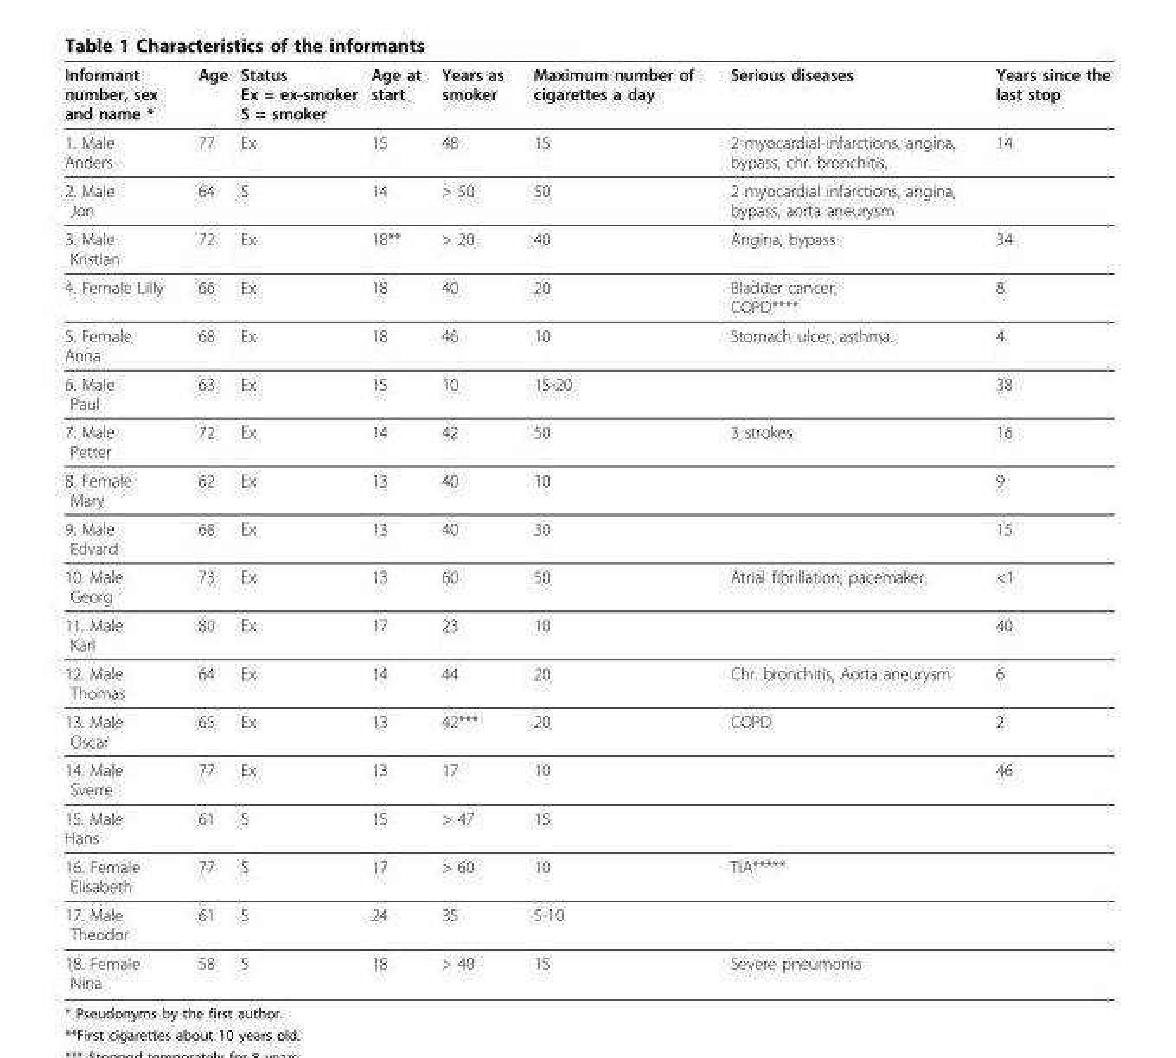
<table><thead><tr><td>Informant number, sex and name *</td><td>Age</td><td>Status Ex = ex-smoker S = smoker</td><td>Age at start</td><td>Years as smoker</td><td>Maximum number of cigarettes a day</td><td>Serious diseases</td><td>Years since the last stop</td></tr></thead><tbody><tr><td>1. Male Anders</td><td>77</td><td>Ex</td><td>15</td><td>48</td><td>15</td><td>2 myocardial infarctions, angina, bypass, chr. bronchitis,</td><td>14</td></tr><tr><td>2. Male Jon</td><td>64</td><td>S</td><td>14</td><td>&gt; 50</td><td>50</td><td>2 myocardial infarctions, angina, bypass, aorta aneurysm</td><td></td></tr><tr><td>3. Male Kristian</td><td>72</td><td>Ex</td><td>18**</td><td>&gt; 20</td><td>40</td><td>Angina, bypass</td><td>34</td></tr><tr><td>4. Female Lilly</td><td>66</td><td>Ex</td><td>18</td><td>40</td><td>20</td><td>Bladder cancer, COPD****</td><td>8</td></tr><tr><td>5. Female Anna</td><td>68</td><td>Ex</td><td>18</td><td>46</td><td>10</td><td>Stomach ulcer, asthma.</td><td>4</td></tr><tr><td>6. Male Paul</td><td>63</td><td>Ex</td><td>15</td><td>10</td><td>15-20</td><td></td><td>38</td></tr><tr><td>7. Male Petter</td><td>72</td><td>Ex</td><td>14</td><td>42</td><td>50</td><td>3 strokes</td><td>16</td></tr><tr><td>8. Female Mary</td><td>62</td><td>Ex</td><td>13</td><td>40</td><td>10</td><td></td><td>9</td></tr><tr><td>9. Male Edvard</td><td>68</td><td>Ex</td><td>13</td><td>40</td><td>30</td><td></td><td>15</td></tr><tr><td>10. Male Georg</td><td>73</td><td>Ex</td><td>13</td><td>60</td><td>50</td><td>Atrial fibrillation, pacemaker.</td><td>&lt;1</td></tr><tr><td>11. Male Karl</td><td>80</td><td>Ex</td><td>17</td><td>23</td><td>10</td><td></td><td>40</td></tr><tr><td>12. Male Thomas</td><td>64</td><td>Ex</td><td>14</td><td>44</td><td>20</td><td>Chr. bronchitis, Aorta aneurysm</td><td>6</td></tr><tr><td>13. Male Oscar</td><td>65</td><td>Ex</td><td>13</td><td>42***</td><td>20</td><td>COPD</td><td>2</td></tr><tr><td>14. Male Sverre</td><td>77</td><td>Ex</td><td>13</td><td>17</td><td>10</td><td></td><td>46</td></tr><tr><td>15. Male Hans</td><td>61</td><td>S</td><td>15</td><td>&gt; 47</td><td>15</td><td></td><td></td></tr><tr><td>16. Female Elisabeth</td><td>77</td><td>S</td><td>17</td><td>&gt; 60</td><td>10</td><td>TIA*****</td><td></td></tr><tr><td>17. Male Theodor</td><td>61</td><td>S</td><td>24</td><td>35</td><td>5-10</td><td></td><td></td></tr><tr><td>18. Female Nina</td><td>58</td><td>S</td><td>18</td><td>&gt; 40</td><td>15</td><td>Severe pneumonia</td><td></td></tr></tbody></table>